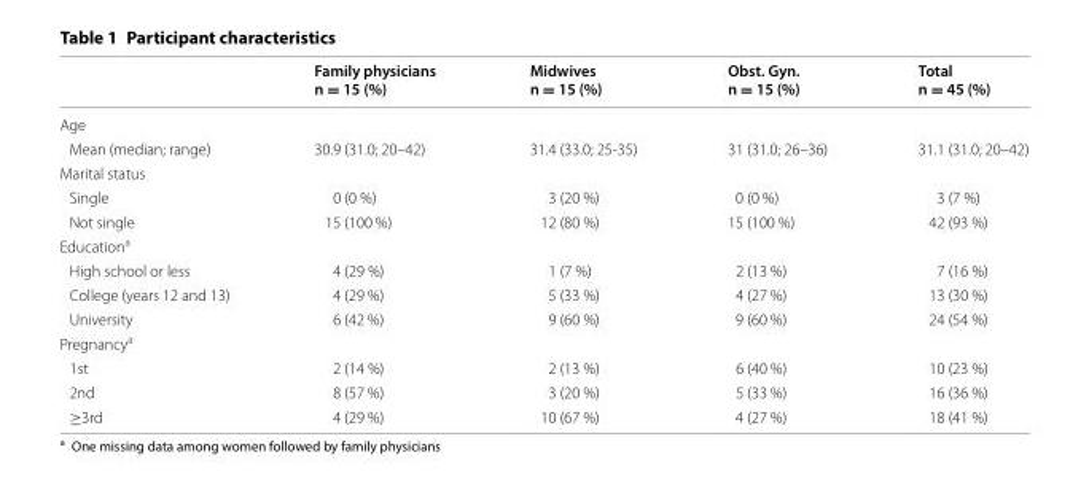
<table><thead><tr><td></td><td>Family physicians n = 15 (%)</td><td>Midwives n = 15 (%)</td><td>Obst. Gyn. n = 15 (%)</td><td>Total n = 45 (%)</td></tr></thead><tbody><tr><td colspan="5">Age</td></tr><tr><td>Mean (median; range)</td><td>30.9 (31.0; 20–42)</td><td>31.4 (33.0; 25-35)</td><td>31 (31.0; 26–36)</td><td>31.1 (31.0; 20–42)</td></tr><tr><td colspan="5">Marital status</td></tr><tr><td>Single</td><td>0 (0 %)</td><td>3 (20 %)</td><td>0 (0 %)</td><td>3 (7 %)</td></tr><tr><td>Not single</td><td>15 (100 %)</td><td>12 (80 %)</td><td>15 (100 %)</td><td>42 (93 %)</td></tr><tr><td colspan="5">Education<sup>a</sup></td></tr><tr><td>High school or less</td><td>4 (29 %)</td><td>1 (7 %)</td><td>2 (13 %)</td><td>7 (16 %)</td></tr><tr><td>College (years 12 and 13)</td><td>4 (29 %)</td><td>5 (33 %)</td><td>4 (27 %)</td><td>13 (30 %)</td></tr><tr><td>University</td><td>6 (42 %)</td><td>9 (60 %)</td><td>9 (60 %)</td><td>24 (54 %)</td></tr><tr><td colspan="5">Pregnancy<sup>a</sup></td></tr><tr><td>1st</td><td>2 (14 %)</td><td>2 (13 %)</td><td>6 (40 %)</td><td>10 (23 %)</td></tr><tr><td>2nd</td><td>8 (57 %)</td><td>3 (20 %)</td><td>5 (33 %)</td><td>16 (36 %)</td></tr><tr><td>≥3rd</td><td>4 (29 %)</td><td>10 (67 %)</td><td>4 (27 %)</td><td>18 (41 %)</td></tr></tbody></table>